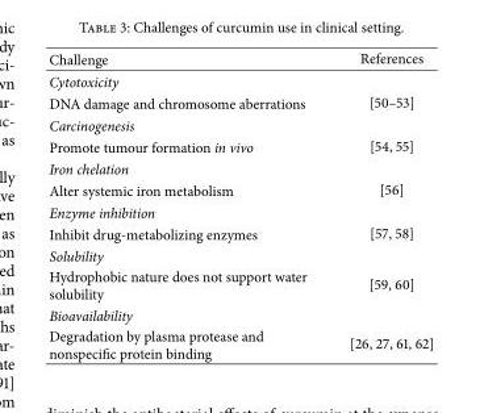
<table><thead><tr><td>Challenge</td><td>References</td></tr></thead><tbody><tr><td colspan="2">Cytotoxicity</td></tr><tr><td>DNA damage and chromosome aberrations</td><td>[50–53]</td></tr><tr><td colspan="2">Carcinogenesis</td></tr><tr><td>Promote tumour formation in vivo</td><td>[54, 55]</td></tr><tr><td colspan="2">Iron chelation</td></tr><tr><td>Alter systemic iron metabolism</td><td>[56]</td></tr><tr><td colspan="2">Enzyme inhibition</td></tr><tr><td>Inhibit drug-metabolizing enzymes</td><td>[57, 58]</td></tr><tr><td colspan="2">Solubility</td></tr><tr><td>Hydrophobic nature does not support water solubility</td><td>[59, 60]</td></tr><tr><td colspan="2">Bioavailability</td></tr><tr><td>Degradation by plasma protease and nonspecific protein binding</td><td>[26, 27, 61, 62]</td></tr></tbody></table>